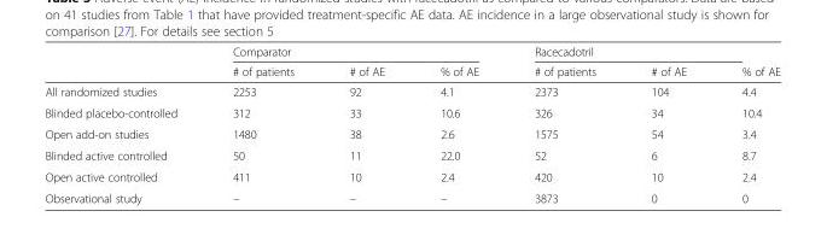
<table><thead><tr><td rowspan="2"></td><td colspan="3">Comparator</td><td colspan="2">Racecadotril</td><td rowspan="2">% of AE</td></tr><tr><td># of patients</td><td># of AE</td><td>% of AE</td><td># of patients</td><td># of AE</td></tr></thead><tbody><tr><td>All randomized studies</td><td>2253</td><td>92</td><td>4.1</td><td>2373</td><td>104</td><td>4.4</td></tr><tr><td>Blinded placebo-controlled</td><td>312</td><td>33</td><td>10.6</td><td>326</td><td>34</td><td>10.4</td></tr><tr><td>Open add-on studies</td><td>1480</td><td>38</td><td>2.6</td><td>1575</td><td>54</td><td>3.4</td></tr><tr><td>Blinded active controlled</td><td>50</td><td>11</td><td>22.0</td><td>52</td><td>6</td><td>8.7</td></tr><tr><td>Open active controlled</td><td>411</td><td>10</td><td>2.4</td><td>420</td><td>10</td><td>2.4</td></tr><tr><td>Observational study</td><td>–</td><td>–</td><td>–</td><td>3873</td><td>0</td><td>0</td></tr></tbody></table>